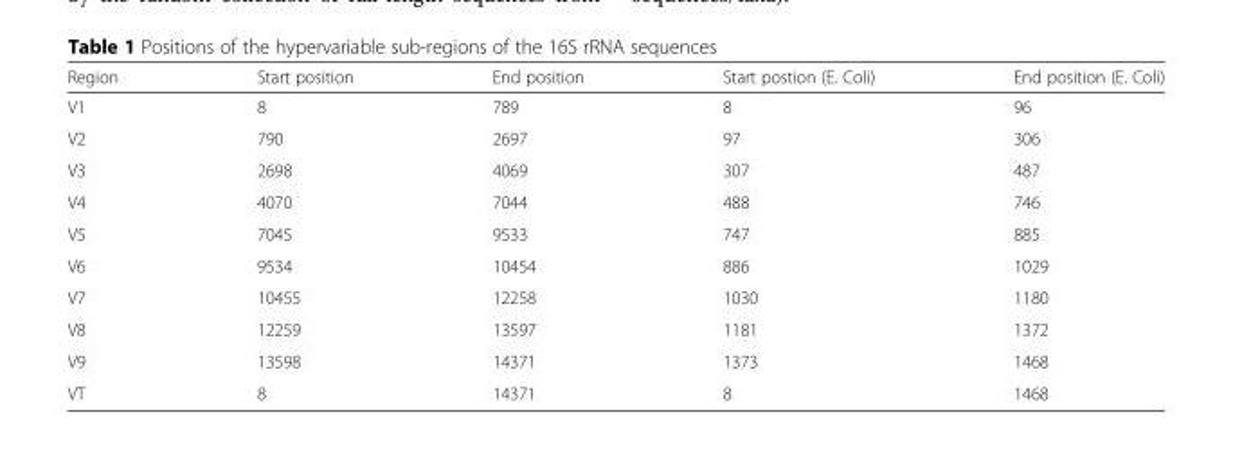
<table><thead><tr><td>Region</td><td>Start position</td><td>End position</td><td>Start postion (E. Coli)</td><td>End position (E. Coli)</td></tr></thead><tbody><tr><td>V1</td><td>8</td><td>789</td><td>8</td><td>96</td></tr><tr><td>V2</td><td>790</td><td>2697</td><td>97</td><td>306</td></tr><tr><td>V3</td><td>2698</td><td>4069</td><td>307</td><td>487</td></tr><tr><td>V4</td><td>4070</td><td>7044</td><td>488</td><td>746</td></tr><tr><td>V5</td><td>7045</td><td>9533</td><td>747</td><td>885</td></tr><tr><td>V6</td><td>9534</td><td>10454</td><td>886</td><td>1029</td></tr><tr><td>V7</td><td>10455</td><td>12258</td><td>1030</td><td>1180</td></tr><tr><td>V8</td><td>12259</td><td>13597</td><td>1181</td><td>1372</td></tr><tr><td>V9</td><td>13598</td><td>14371</td><td>1373</td><td>1468</td></tr><tr><td>VT</td><td>8</td><td>14371</td><td>8</td><td>1468</td></tr></tbody></table>